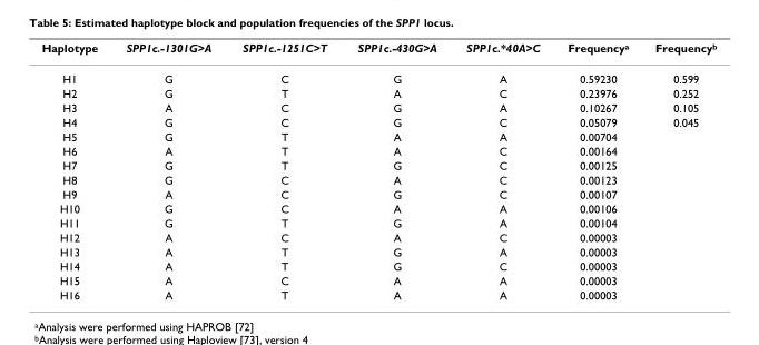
<table><thead><tr><td>Haplotype</td><td>SPP1c.-1301G&gt;A</td><td>SPP1c.-1251C&gt;T</td><td>SPP1c.-430G&gt;A</td><td>SPP1c.*40A&gt;C</td><td>Frequency<sup>a</sup></td><td>Frequency<sup>b</sup></td></tr></thead><tbody><tr><td>H1</td><td>G</td><td>C</td><td>G</td><td>A</td><td>0.59230</td><td>0.599</td></tr><tr><td>H2</td><td>G</td><td>T</td><td>A</td><td>C</td><td>0.23976</td><td>0.252</td></tr><tr><td>H3</td><td>A</td><td>C</td><td>G</td><td>A</td><td>0.10267</td><td>0.105</td></tr><tr><td>H4</td><td>G</td><td>C</td><td>G</td><td>C</td><td>0.05079</td><td>0.045</td></tr><tr><td>H5</td><td>G</td><td>T</td><td>A</td><td>A</td><td>0.00704</td><td></td></tr><tr><td>H6</td><td>A</td><td>T</td><td>A</td><td>C</td><td>0.00164</td><td></td></tr><tr><td>H7</td><td>G</td><td>T</td><td>G</td><td>C</td><td>0.00125</td><td></td></tr><tr><td>H8</td><td>G</td><td>C</td><td>A</td><td>C</td><td>0.00123</td><td></td></tr><tr><td>H9</td><td>A</td><td>C</td><td>G</td><td>C</td><td>0.00107</td><td></td></tr><tr><td>H10</td><td>G</td><td>C</td><td>A</td><td>A</td><td>0.00106</td><td></td></tr><tr><td>H11</td><td>G</td><td>T</td><td>G</td><td>A</td><td>0.00104</td><td></td></tr><tr><td>H12</td><td>A</td><td>C</td><td>A</td><td>C</td><td>0.00003</td><td></td></tr><tr><td>H13</td><td>A</td><td>T</td><td>G</td><td>A</td><td>0.00003</td><td></td></tr><tr><td>H14</td><td>A</td><td>T</td><td>G</td><td>C</td><td>0.00003</td><td></td></tr><tr><td>H15</td><td>A</td><td>C</td><td>A</td><td>A</td><td>0.00003</td><td></td></tr><tr><td>H16</td><td>A</td><td>T</td><td>A</td><td>A</td><td>0.00003</td><td></td></tr></tbody></table>